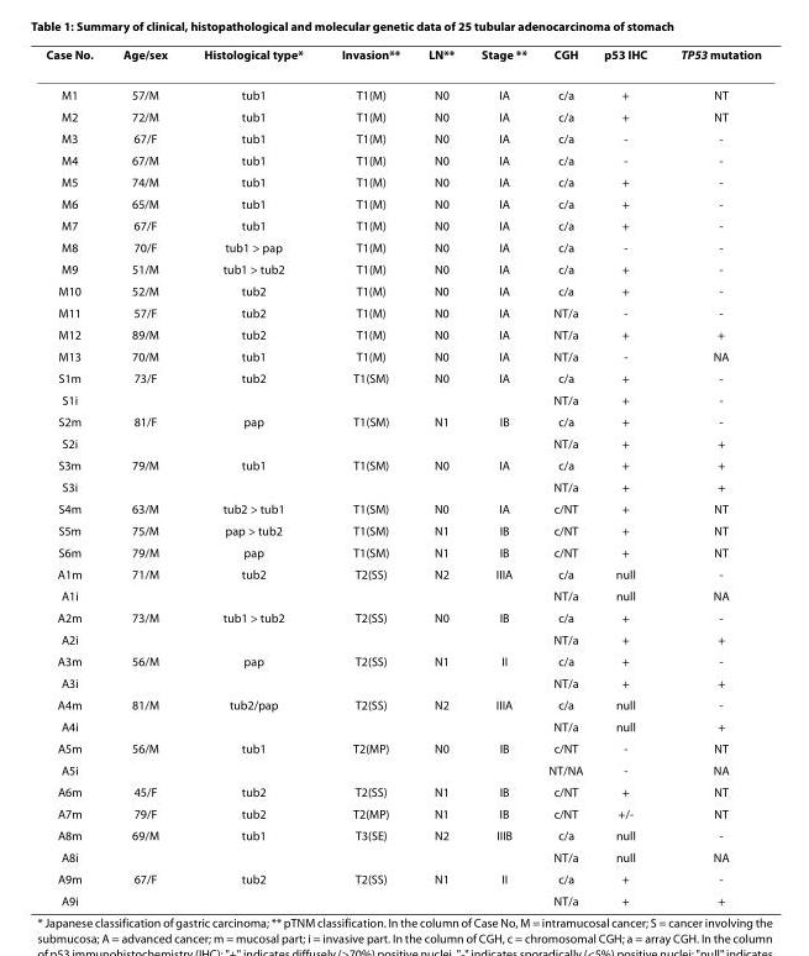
<table><thead><tr><td>Case No.</td><td>Age/sex</td><td>Histological type*</td><td>Invasion**</td><td>LN**</td><td>Stage **</td><td>CGH</td><td>p53 IHC</td><td>TP53 mutation</td></tr></thead><tbody><tr><td>M1</td><td>57/M</td><td>tub1</td><td>T1(M)</td><td>N0</td><td>IA</td><td>c/a</td><td>+</td><td>NT</td></tr><tr><td>M2</td><td>72/M</td><td>tub1</td><td>T1(M)</td><td>N0</td><td>IA</td><td>c/a</td><td>+</td><td>NT</td></tr><tr><td>M3</td><td>67/F</td><td>tub1</td><td>T1(M)</td><td>N0</td><td>IA</td><td>c/a</td><td>-</td><td>-</td></tr><tr><td>M4</td><td>67/M</td><td>tub1</td><td>T1(M)</td><td>N0</td><td>IA</td><td>c/a</td><td>-</td><td>-</td></tr><tr><td>M5</td><td>74/M</td><td>tub1</td><td>T1(M)</td><td>N0</td><td>IA</td><td>c/a</td><td>+</td><td>-</td></tr><tr><td>M6</td><td>65/M</td><td>tub1</td><td>T1(M)</td><td>N0</td><td>IA</td><td>c/a</td><td>+</td><td>-</td></tr><tr><td>M7</td><td>67/F</td><td>tub1</td><td>T1(M)</td><td>N0</td><td>IA</td><td>c/a</td><td>+</td><td>-</td></tr><tr><td>M8</td><td>70/F</td><td>tub1 &gt; pap</td><td>T1(M)</td><td>N0</td><td>IA</td><td>c/a</td><td>-</td><td>-</td></tr><tr><td>M9</td><td>51/M</td><td>tub1 &gt; tub2</td><td>T1(M)</td><td>N0</td><td>IA</td><td>c/a</td><td>+</td><td>-</td></tr><tr><td>M10</td><td>52/M</td><td>tub2</td><td>T1(M)</td><td>N0</td><td>IA</td><td>c/a</td><td>+</td><td>-</td></tr><tr><td>M11</td><td>57/F</td><td>tub2</td><td>T1(M)</td><td>N0</td><td>IA</td><td>NT/a</td><td>-</td><td>-</td></tr><tr><td>M12</td><td>89/M</td><td>tub2</td><td>T1(M)</td><td>N0</td><td>IA</td><td>NT/a</td><td>+</td><td>+</td></tr><tr><td>M13</td><td>70/M</td><td>tub1</td><td>T1(M)</td><td>N0</td><td>IA</td><td>NT/a</td><td>-</td><td>NA</td></tr><tr><td>S1m</td><td>73/F</td><td>tub2</td><td>T1(SM)</td><td>N0</td><td>IA</td><td>c/a</td><td>+</td><td>-</td></tr><tr><td>S1i</td><td></td><td></td><td></td><td></td><td></td><td>NT/a</td><td>+</td><td>-</td></tr><tr><td>S2m</td><td>81/F</td><td>pap</td><td>T1(SM)</td><td>N1</td><td>IB</td><td>c/a</td><td>+</td><td>-</td></tr><tr><td>S2i</td><td></td><td></td><td></td><td></td><td></td><td>NT/a</td><td>+</td><td>+</td></tr><tr><td>S3m</td><td>79/M</td><td>tub1</td><td>T1(SM)</td><td>N0</td><td>IA</td><td>c/a</td><td>+</td><td>+</td></tr><tr><td>S3i</td><td></td><td></td><td></td><td></td><td></td><td>NT/a</td><td>+</td><td>+</td></tr><tr><td>S4m</td><td>63/M</td><td>tub2 &gt; tub1</td><td>T1(SM)</td><td>N0</td><td>IA</td><td>c/NT</td><td>+</td><td>NT</td></tr><tr><td>S5m</td><td>75/M</td><td>pap &gt; tub2</td><td>T1(SM)</td><td>N1</td><td>IB</td><td>c/NT</td><td>+</td><td>NT</td></tr><tr><td>S6m</td><td>79/M</td><td>pap</td><td>T1(SM)</td><td>N1</td><td>IB</td><td>c/NT</td><td>+</td><td>NT</td></tr><tr><td>A1m</td><td>71/M</td><td>tub2</td><td>T2(SS)</td><td>N2</td><td>IIIA</td><td>c/a</td><td>null</td><td>-</td></tr><tr><td>A1i</td><td></td><td></td><td></td><td></td><td></td><td>NT/a</td><td>null</td><td>NA</td></tr><tr><td>A2m</td><td>73/M</td><td>tub1 &gt; tub2</td><td>T2(SS)</td><td>N0</td><td>IB</td><td>c/a</td><td>+</td><td>-</td></tr><tr><td>A2i</td><td></td><td></td><td></td><td></td><td></td><td>NT/a</td><td>+</td><td>+</td></tr><tr><td>A3m</td><td>56/M</td><td>pap</td><td>T2(SS)</td><td>N1</td><td>II</td><td>c/a</td><td>+</td><td>-</td></tr><tr><td>A3i</td><td></td><td></td><td></td><td></td><td></td><td>NT/a</td><td>+</td><td>+</td></tr><tr><td>A4m</td><td>81/M</td><td>tub2/pap</td><td>T2(SS)</td><td>N2</td><td>IIIA</td><td>c/a</td><td>null</td><td>-</td></tr><tr><td>A4i</td><td></td><td></td><td></td><td></td><td></td><td>NT/a</td><td>null</td><td>+</td></tr><tr><td>A5m</td><td>56/M</td><td>tub1</td><td>T2(MP)</td><td>N0</td><td>IB</td><td>c/NT</td><td>-</td><td>NT</td></tr><tr><td>A5i</td><td></td><td></td><td></td><td></td><td></td><td>NT/NA</td><td>-</td><td>NA</td></tr><tr><td>A6m</td><td>45/F</td><td>tub2</td><td>T2(SS)</td><td>N1</td><td>IB</td><td>c/NT</td><td>+</td><td>NT</td></tr><tr><td>A7m</td><td>79/F</td><td>tub2</td><td>T2(MP)</td><td>N1</td><td>IB</td><td>c/NT</td><td>+/-</td><td>NT</td></tr><tr><td>A8m</td><td>69/M</td><td>tub1</td><td>T3(SE)</td><td>N2</td><td>IIIB</td><td>c/a</td><td>null</td><td>-</td></tr><tr><td>A8i</td><td></td><td></td><td></td><td></td><td></td><td>NT/a</td><td>null</td><td>NA</td></tr><tr><td>A9m</td><td>67/F</td><td>tub2</td><td>T2(SS)</td><td>N1</td><td>II</td><td>c/a</td><td>+</td><td>-</td></tr><tr><td>A9i</td><td></td><td></td><td></td><td></td><td></td><td>NT/a</td><td>+</td><td>+</td></tr></tbody></table>